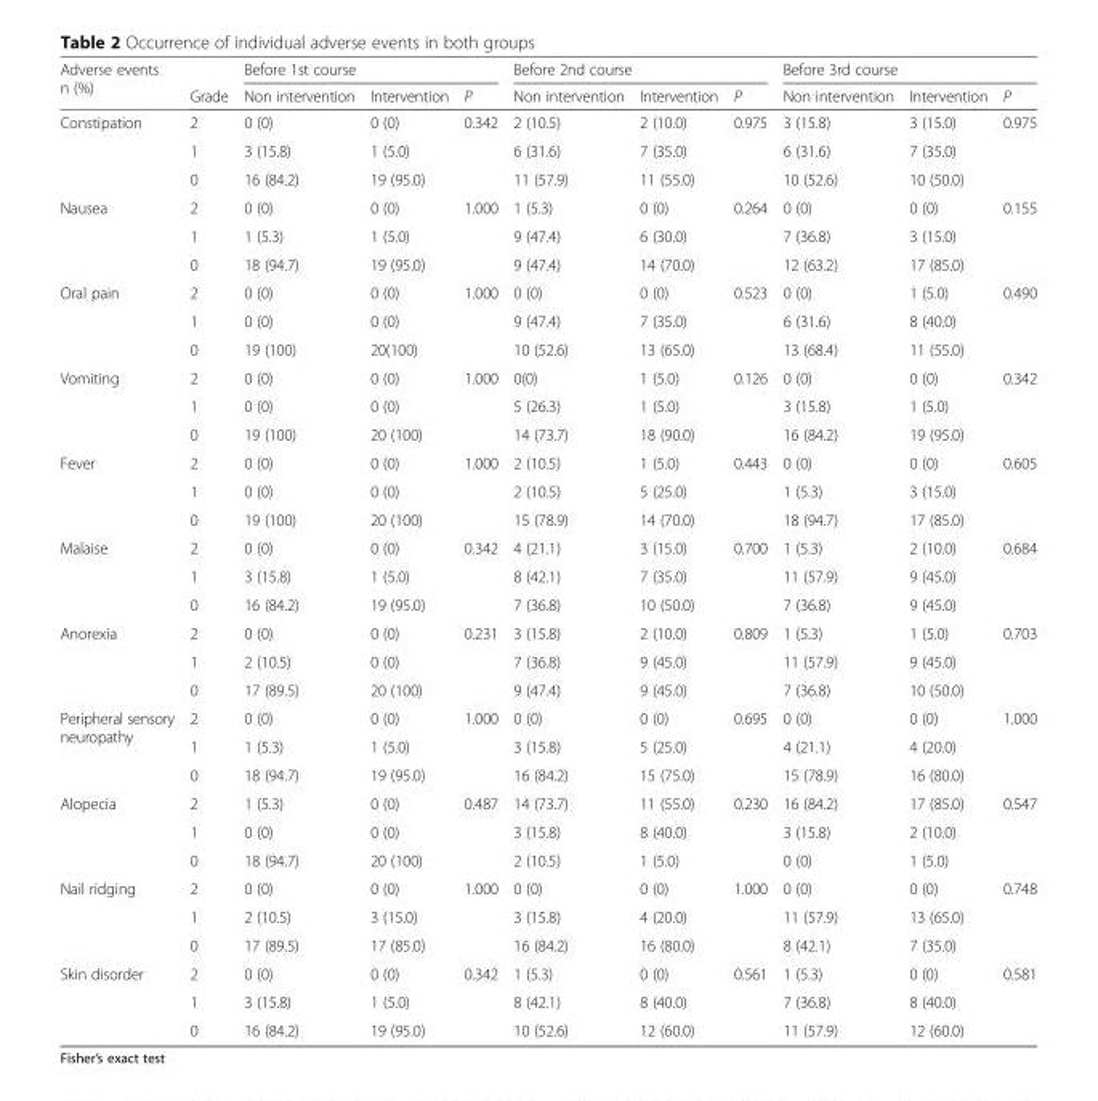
<table><thead><tr><td rowspan="2">Adverse events n (%)</td><td rowspan="2">Grade</td><td colspan="3">Before 1st course</td><td colspan="3">Before 2nd course</td><td colspan="3">Before 3rd course</td></tr><tr><td>Non intervention</td><td>Intervention</td><td>P</td><td>Non intervention</td><td>Intervention</td><td>P</td><td>Non intervention</td><td>Intervention</td><td>P</td></tr></thead><tbody><tr><td rowspan="3">Constipation</td><td>2</td><td>0 (0)</td><td>0 (0)</td><td rowspan="3">0.342</td><td>2 (10.5)</td><td>2 (10.0)</td><td rowspan="3">0.975</td><td>3 (15.8)</td><td>3 (15.0)</td><td rowspan="3">0.975</td></tr><tr><td>1</td><td>3 (15.8)</td><td>1 (5.0)</td><td>6 (31.6)</td><td>7 (35.0)</td><td>6 (31.6)</td><td>7 (35.0)</td></tr><tr><td>0</td><td>16 (84.2)</td><td>19 (95.0)</td><td>11 (57.9)</td><td>11 (55.0)</td><td>10 (52.6)</td><td>10 (50.0)</td></tr><tr><td rowspan="3">Nausea</td><td>2</td><td>0 (0)</td><td>0 (0)</td><td rowspan="3">1.000</td><td>1 (5.3)</td><td>0 (0)</td><td rowspan="3">0.264</td><td>0 (0)</td><td>0 (0)</td><td rowspan="3">0.155</td></tr><tr><td>1</td><td>1 (5.3)</td><td>1 (5.0)</td><td>9 (47.4)</td><td>6 (30.0)</td><td>7 (36.8)</td><td>3 (15.0)</td></tr><tr><td>0</td><td>18 (94.7)</td><td>19 (95.0)</td><td>9 (47.4)</td><td>14 (70.0)</td><td>12 (63.2)</td><td>17 (85.0)</td></tr><tr><td rowspan="3">Oral pain</td><td>2</td><td>0 (0)</td><td>0 (0)</td><td rowspan="3">1.000</td><td>0 (0)</td><td>0 (0)</td><td rowspan="3">0.523</td><td>0 (0)</td><td>1 (5.0)</td><td rowspan="3">0.490</td></tr><tr><td>1</td><td>0 (0)</td><td>0 (0)</td><td>9 (47.4)</td><td>7 (35.0)</td><td>6 (31.6)</td><td>8 (40.0)</td></tr><tr><td>0</td><td>19 (100)</td><td>20(100)</td><td>10 (52.6)</td><td>13 (65.0)</td><td>13 (68.4)</td><td>11 (55.0)</td></tr><tr><td rowspan="3">Vomiting</td><td>2</td><td>0 (0)</td><td>0 (0)</td><td rowspan="3">1.000</td><td>0(0)</td><td>1 (5.0)</td><td rowspan="3">0.126</td><td>0 (0)</td><td>0 (0)</td><td rowspan="3">0.342</td></tr><tr><td>1</td><td>0 (0)</td><td>0 (0)</td><td>5 (26.3)</td><td>1 (5.0)</td><td>3 (15.8)</td><td>1 (5.0)</td></tr><tr><td>0</td><td>19 (100)</td><td>20 (100)</td><td>14 (73.7)</td><td>18 (90.0)</td><td>16 (84.2)</td><td>19 (95.0)</td></tr><tr><td rowspan="3">Fever</td><td>2</td><td>0 (0)</td><td>0 (0)</td><td rowspan="3">1.000</td><td>2 (10.5)</td><td>1 (5.0)</td><td rowspan="3">0.443</td><td>0 (0)</td><td>0 (0)</td><td rowspan="3">0.605</td></tr><tr><td>1</td><td>0 (0)</td><td>0 (0)</td><td>2 (10.5)</td><td>5 (25.0)</td><td>1 (5.3)</td><td>3 (15.0)</td></tr><tr><td>0</td><td>19 (100)</td><td>20 (100)</td><td>15 (78.9)</td><td>14 (70.0)</td><td>18 (94.7)</td><td>17 (85.0)</td></tr><tr><td rowspan="3">Malaise</td><td>2</td><td>0 (0)</td><td>0 (0)</td><td rowspan="3">0.342</td><td>4 (21.1)</td><td>3 (15.0)</td><td rowspan="3">0.700</td><td>1 (5.3)</td><td>2 (10.0)</td><td rowspan="3">0.684</td></tr><tr><td>1</td><td>3 (15.8)</td><td>1 (5.0)</td><td>8 (42.1)</td><td>7 (35.0)</td><td>11 (57.9)</td><td>9 (45.0)</td></tr><tr><td>0</td><td>16 (84.2)</td><td>19 (95.0)</td><td>7 (36.8)</td><td>10 (50.0)</td><td>7 (36.8)</td><td>9 (45.0)</td></tr><tr><td rowspan="3">Anorexia</td><td>2</td><td>0 (0)</td><td>0 (0)</td><td rowspan="3">0.231</td><td>3 (15.8)</td><td>2 (10.0)</td><td rowspan="3">0.809</td><td>1 (5.3)</td><td>1 (5.0)</td><td rowspan="3">0.703</td></tr><tr><td>1</td><td>2 (10.5)</td><td>0 (0)</td><td>7 (36.8)</td><td>9 (45.0)</td><td>11 (57.9)</td><td>9 (45.0)</td></tr><tr><td>0</td><td>17 (89.5)</td><td>20 (100)</td><td>9 (47.4)</td><td>9 (45.0)</td><td>7 (36.8)</td><td>10 (50.0)</td></tr><tr><td rowspan="3">Peripheral sensory neuropathy</td><td>2</td><td>0 (0)</td><td>0 (0)</td><td rowspan="3">1.000</td><td>0 (0)</td><td>0 (0)</td><td rowspan="3">0.695</td><td>0 (0)</td><td>0 (0)</td><td rowspan="3">1.000</td></tr><tr><td>1</td><td>1 (5.3)</td><td>1 (5.0)</td><td>3 (15.8)</td><td>5 (25.0)</td><td>4 (21.1)</td><td>4 (20.0)</td></tr><tr><td>0</td><td>18 (94.7)</td><td>19 (95.0)</td><td>16 (84.2)</td><td>15 (75.0)</td><td>15 (78.9)</td><td>16 (80.0)</td></tr><tr><td rowspan="3">Alopecia</td><td>2</td><td>1 (5.3)</td><td>0 (0)</td><td rowspan="3">0.487</td><td>14 (73.7)</td><td>11 (55.0)</td><td rowspan="3">0.230</td><td>16 (84.2)</td><td>17 (85.0)</td><td rowspan="3">0.547</td></tr><tr><td>1</td><td>0 (0)</td><td>0 (0)</td><td>3 (15.8)</td><td>8 (40.0)</td><td>3 (15.8)</td><td>2 (10.0)</td></tr><tr><td>0</td><td>18 (94.7)</td><td>20 (100)</td><td>2 (10.5)</td><td>1 (5.0)</td><td>0 (0)</td><td>1 (5.0)</td></tr><tr><td rowspan="3">Nail ridging</td><td>2</td><td>0 (0)</td><td>0 (0)</td><td rowspan="3">1.000</td><td>0 (0)</td><td>0 (0)</td><td rowspan="3">1.000</td><td>0 (0)</td><td>0 (0)</td><td rowspan="3">0.748</td></tr><tr><td>1</td><td>2 (10.5)</td><td>3 (15.0)</td><td>3 (15.8)</td><td>4 (20.0)</td><td>11 (57.9)</td><td>13 (65.0)</td></tr><tr><td>0</td><td>17 (89.5)</td><td>17 (85.0)</td><td>16 (84.2)</td><td>16 (80.0)</td><td>8 (42.1)</td><td>7 (35.0)</td></tr><tr><td rowspan="3">Skin disorder</td><td>2</td><td>0 (0)</td><td>0 (0)</td><td rowspan="3">0.342</td><td>1 (5.3)</td><td>0 (0)</td><td rowspan="3">0.561</td><td>1 (5.3)</td><td>0 (0)</td><td rowspan="3">0.581</td></tr><tr><td>1</td><td>3 (15.8)</td><td>1 (5.0)</td><td>8 (42.1)</td><td>8 (40.0)</td><td>7 (36.8)</td><td>8 (40.0)</td></tr><tr><td>0</td><td>16 (84.2)</td><td>19 (95.0)</td><td>10 (52.6)</td><td>12 (60.0)</td><td>11 (57.9)</td><td>12 (60.0)</td></tr></tbody></table>